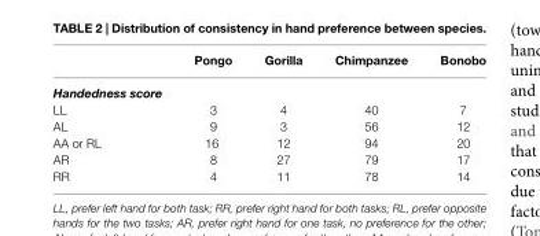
<table><thead><tr><td></td><td>Pongo</td><td>Gorilla</td><td>Chimpanzee</td><td>Bonobo</td></tr></thead><tbody><tr><td colspan="5">Handedness score</td></tr><tr><td>LL</td><td>3</td><td>4</td><td>40</td><td>7</td></tr><tr><td>AL</td><td>9</td><td>3</td><td>56</td><td>12</td></tr><tr><td>AA or RL</td><td>16</td><td>12</td><td>94</td><td>20</td></tr><tr><td>AR</td><td>8</td><td>27</td><td>79</td><td>17</td></tr><tr><td>RR</td><td>4</td><td>11</td><td>78</td><td>14</td></tr></tbody></table>